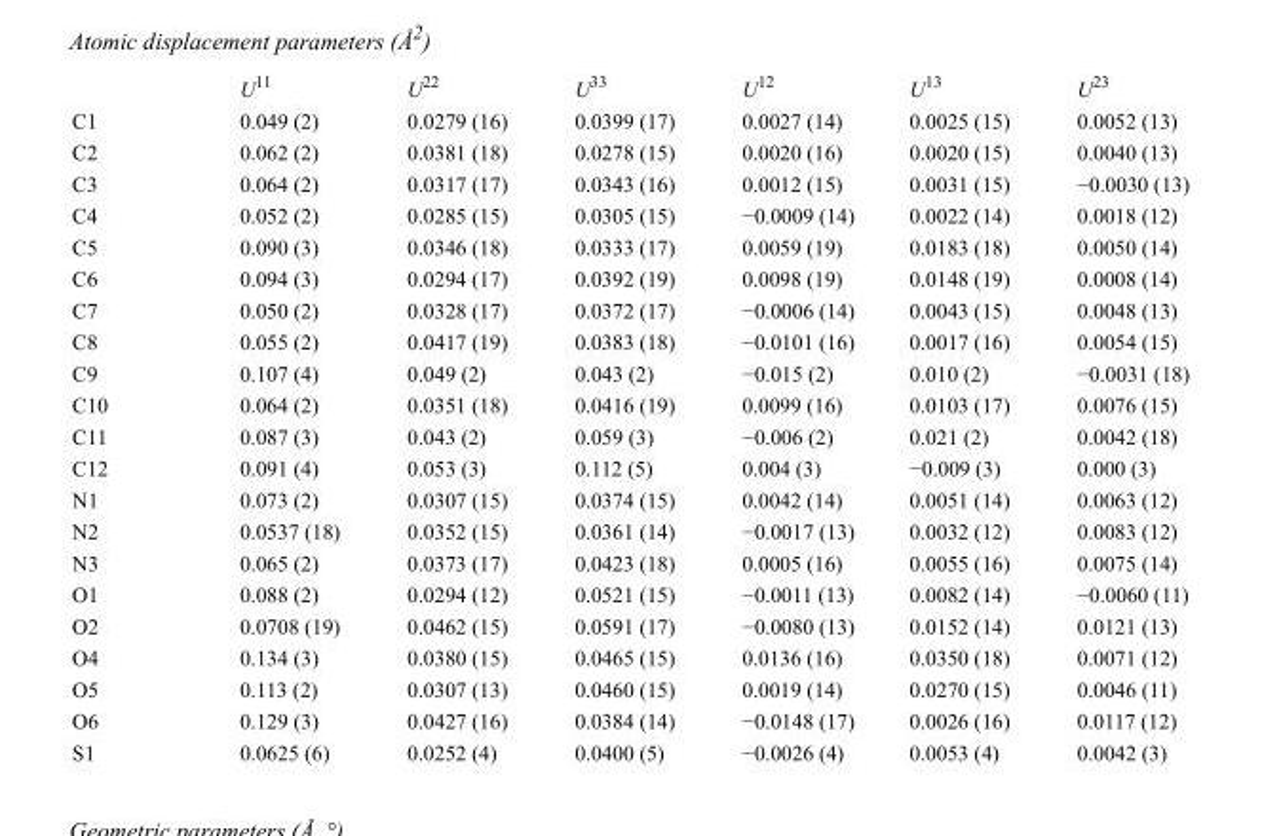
<table><thead><tr><td></td><td>U<sup>11</sup></td><td>U<sup>22</sup></td><td>U<sup>33</sup></td><td>U<sup>12</sup></td><td>U<sup>13</sup></td><td>U<sup>23</sup></td></tr></thead><tbody><tr><td>C1</td><td>0.049 (2)</td><td>0.0279 (16)</td><td>0.0399 (17)</td><td>0.0027 (14)</td><td>0.0025 (15)</td><td>0.0052 (13)</td></tr><tr><td>C2</td><td>0.062 (2)</td><td>0.0381 (18)</td><td>0.0278 (15)</td><td>0.0020 (16)</td><td>0.0020 (15)</td><td>0.0040 (13)</td></tr><tr><td>C3</td><td>0.064 (2)</td><td>0.0317 (17)</td><td>0.0343 (16)</td><td>0.0012 (15)</td><td>0.0031 (15)</td><td>−0.0030 (13)</td></tr><tr><td>C4</td><td>0.052 (2)</td><td>0.0285 (15)</td><td>0.0305 (15)</td><td>−0.0009 (14)</td><td>0.0022 (14)</td><td>0.0018 (12)</td></tr><tr><td>C5</td><td>0.090 (3)</td><td>0.0346 (18)</td><td>0.0333 (17)</td><td>0.0059 (19)</td><td>0.0183 (18)</td><td>0.0050 (14)</td></tr><tr><td>C6</td><td>0.094 (3)</td><td>0.0294 (17)</td><td>0.0392 (19)</td><td>0.0098 (19)</td><td>0.0148 (19)</td><td>0.0008 (14)</td></tr><tr><td>C7</td><td>0.050 (2)</td><td>0.0328 (17)</td><td>0.0372 (17)</td><td>−0.0006 (14)</td><td>0.0043 (15)</td><td>0.0048 (13)</td></tr><tr><td>C8</td><td>0.055 (2)</td><td>0.0417 (19)</td><td>0.0383 (18)</td><td>−0.0101 (16)</td><td>0.0017 (16)</td><td>0.0054 (15)</td></tr><tr><td>C9</td><td>0.107 (4)</td><td>0.049 (2)</td><td>0.043 (2)</td><td>−0.015 (2)</td><td>0.010 (2)</td><td>−0.0031 (18)</td></tr><tr><td>C10</td><td>0.064 (2)</td><td>0.0351 (18)</td><td>0.0416 (19)</td><td>0.0099 (16)</td><td>0.0103 (17)</td><td>0.0076 (15)</td></tr><tr><td>C11</td><td>0.087 (3)</td><td>0.043 (2)</td><td>0.059 (3)</td><td>−0.006 (2)</td><td>0.021 (2)</td><td>0.0042 (18)</td></tr><tr><td>C12</td><td>0.091 (4)</td><td>0.053 (3)</td><td>0.112 (5)</td><td>0.004 (3)</td><td>−0.009 (3)</td><td>0.000 (3)</td></tr><tr><td>N1</td><td>0.073 (2)</td><td>0.0307 (15)</td><td>0.0374 (15)</td><td>0.0042 (14)</td><td>0.0051 (14)</td><td>0.0063 (12)</td></tr><tr><td>N2</td><td>0.0537 (18)</td><td>0.0352 (15)</td><td>0.0361 (14)</td><td>−0.0017 (13)</td><td>0.0032 (12)</td><td>0.0083 (12)</td></tr><tr><td>N3</td><td>0.065 (2)</td><td>0.0373 (17)</td><td>0.0423 (18)</td><td>0.0005 (16)</td><td>0.0055 (16)</td><td>0.0075 (14)</td></tr><tr><td>O1</td><td>0.088 (2)</td><td>0.0294 (12)</td><td>0.0521 (15)</td><td>−0.0011 (13)</td><td>0.0082 (14)</td><td>−0.0060 (11)</td></tr><tr><td>O2</td><td>0.0708 (19)</td><td>0.0462 (15)</td><td>0.0591 (17)</td><td>−0.0080 (13)</td><td>0.0152 (14)</td><td>0.0121 (13)</td></tr><tr><td>O4</td><td>0.134 (3)</td><td>0.0380 (15)</td><td>0.0465 (15)</td><td>0.0136 (16)</td><td>0.0350 (18)</td><td>0.0071 (12)</td></tr><tr><td>O5</td><td>0.113 (2)</td><td>0.0307 (13)</td><td>0.0460 (15)</td><td>0.0019 (14)</td><td>0.0270 (15)</td><td>0.0046 (11)</td></tr><tr><td>O6</td><td>0.129 (3)</td><td>0.0427 (16)</td><td>0.0384 (14)</td><td>−0.0148 (17)</td><td>0.0026 (16)</td><td>0.0117 (12)</td></tr><tr><td>S1</td><td>0.0625 (6)</td><td>0.0252 (4)</td><td>0.0400 (5)</td><td>−0.0026 (4)</td><td>0.0053 (4)</td><td>0.0042 (3)</td></tr></tbody></table>